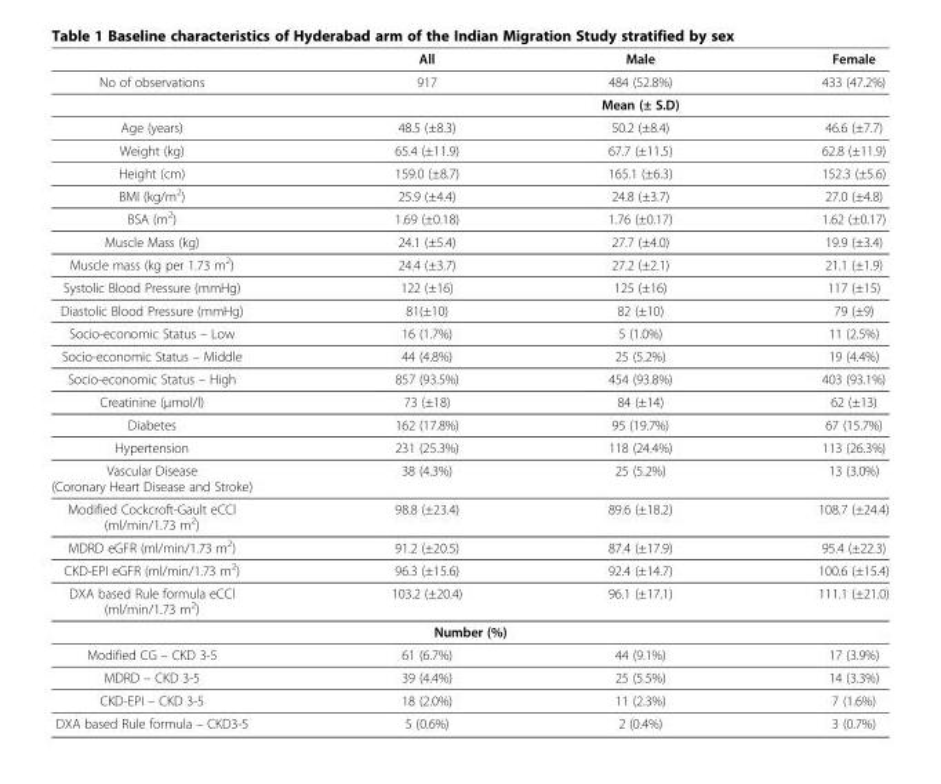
<table><thead><tr><td></td><td>All</td><td>Male</td><td>Female</td></tr></thead><tbody><tr><td>No of observations</td><td>917</td><td>484 (52.8%)</td><td>433 (47.2%)</td></tr><tr><td colspan="2"></td><td>Mean (± S.D)</td><td></td></tr><tr><td>Age (years)</td><td>48.5 (±8.3)</td><td>50.2 (±8.4)</td><td>46.6 (±7.7)</td></tr><tr><td>Weight (kg)</td><td>65.4 (±11.9)</td><td>67.7 (±11.5)</td><td>62.8 (±11.9)</td></tr><tr><td>Height (cm)</td><td>159.0 (±8.7)</td><td>165.1 (±6.3)</td><td>152.3 (±5.6)</td></tr><tr><td>BMI (kg/m<sup>2</sup>)</td><td>25.9 (±4.4)</td><td>24.8 (±3.7)</td><td>27.0 (±4.8)</td></tr><tr><td>BSA (m<sup>2</sup>)</td><td>1.69 (±0.18)</td><td>1.76 (±0.17)</td><td>1.62 (±0.17)</td></tr><tr><td>Muscle Mass (kg)</td><td>24.1 (±5.4)</td><td>27.7 (±4.0)</td><td>19.9 (±3.4)</td></tr><tr><td>Muscle mass (kg per 1.73 m<sup>2</sup>)</td><td>24.4 (±3.7)</td><td>27.2 (±2.1)</td><td>21.1 (±1.9)</td></tr><tr><td>Systolic Blood Pressure (mmHg)</td><td>122 (±16)</td><td>125 (±16)</td><td>117 (±15)</td></tr><tr><td>Diastolic Blood Pressure (mmHg)</td><td>81(±10)</td><td>82 (±10)</td><td>79 (±9)</td></tr><tr><td>Socio-economic Status – Low</td><td>16 (1.7%)</td><td>5 (1.0%)</td><td>11 (2.5%)</td></tr><tr><td>Socio-economic Status – Middle</td><td>44 (4.8%)</td><td>25 (5.2%)</td><td>19 (4.4%)</td></tr><tr><td>Socio-economic Status – High</td><td>857 (93.5%)</td><td>454 (93.8%)</td><td>403 (93.1%)</td></tr><tr><td>Creatinine (μmol/l)</td><td>73 (±18)</td><td>84 (±14)</td><td>62 (±13)</td></tr><tr><td>Diabetes</td><td>162 (17.8%)</td><td>95 (19.7%)</td><td>67 (15.7%)</td></tr><tr><td>Hypertension</td><td>231 (25.3%)</td><td>118 (24.4%)</td><td>113 (26.3%)</td></tr><tr><td>Vascular Disease (Coronary Heart Disease and Stroke)</td><td>38 (4.3%)</td><td>25 (5.2%)</td><td>13 (3.0%)</td></tr><tr><td>Modified Cockcroft-Gault eCCl (ml/min/1.73 m<sup>2</sup>)</td><td>98.8 (±23.4)</td><td>89.6 (±18.2)</td><td>108.7 (±24.4)</td></tr><tr><td>MDRD eGFR (ml/min/1.73 m<sup>2</sup>)</td><td>91.2 (±20.5)</td><td>87.4 (±17.9)</td><td>95.4 (±22.3)</td></tr><tr><td>CKD-EPI eGFR (ml/min/1.73 m<sup>2</sup>)</td><td>96.3 (±15.6)</td><td>92.4 (±14.7)</td><td>100.6 (±15.4)</td></tr><tr><td>DXA based Rule formula eCCl (ml/min/1.73 m<sup>2</sup>)</td><td>103.2 (±20.4)</td><td>96.1 (±17.1)</td><td>111.1 (±21.0)</td></tr><tr><td colspan="4">Number (%)</td></tr><tr><td>Modified CG – CKD 3-5</td><td>61 (6.7%)</td><td>44 (9.1%)</td><td>17 (3.9%)</td></tr><tr><td>MDRD – CKD 3-5</td><td>39 (4.4%)</td><td>25 (5.5%)</td><td>14 (3.3%)</td></tr><tr><td>CKD-EPI – CKD 3-5</td><td>18 (2.0%)</td><td>11 (2.3%)</td><td>7 (1.6%)</td></tr><tr><td>DXA based Rule formula – CKD3-5</td><td>5 (0.6%)</td><td>2 (0.4%)</td><td>3 (0.7%)</td></tr></tbody></table>